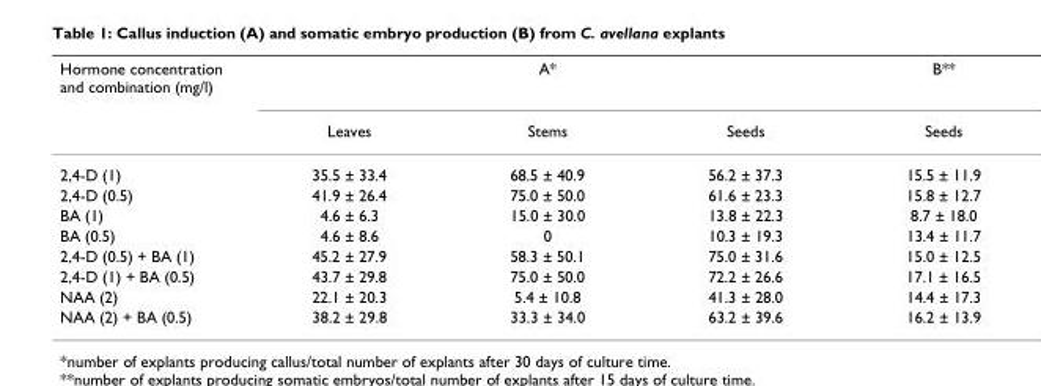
<table><thead><tr><td rowspan="2">Hormone concentration and combination (mg/l)</td><td colspan="3">A*</td><td rowspan="2">B** Seeds</td></tr><tr><td>Leaves</td><td>Stems</td><td>Seeds</td></tr></thead><tbody><tr><td>2,4-D (1)</td><td>35.5 ± 33.4</td><td>68.5 ± 40.9</td><td>56.2 ± 37.3</td><td>15.5 ± 11.9</td></tr><tr><td>2,4-D (0.5)</td><td>41.9 ± 26.4</td><td>75.0 ± 50.0</td><td>61.6 ± 23.3</td><td>15.8 ± 12.7</td></tr><tr><td>BA (1)</td><td>4.6 ± 6.3</td><td>15.0 ± 30.0</td><td>13.8 ± 22.3</td><td>8.7 ± 18.0</td></tr><tr><td>BA (0.5)</td><td>4.6 ± 8.6</td><td>0</td><td>10.3 ± 19.3</td><td>13.4 ± 11.7</td></tr><tr><td>2,4-D (0.5) + BA (1)</td><td>45.2 ± 27.9</td><td>58.3 ± 50.1</td><td>75.0 ± 31.6</td><td>15.0 ± 12.5</td></tr><tr><td>2,4-D (1) + BA (0.5)</td><td>43.7 ± 29.8</td><td>75.0 ± 50.0</td><td>72.2 ± 26.6</td><td>17.1 ± 16.5</td></tr><tr><td>NAA (2)</td><td>22.1 ± 20.3</td><td>5.4 ± 10.8</td><td>41.3 ± 28.0</td><td>14.4 ± 17.3</td></tr><tr><td>NAA (2) + BA (0.5)</td><td>38.2 ± 29.8</td><td>33.3 ± 34.0</td><td>63.2 ± 39.6</td><td>16.2 ± 13.9</td></tr></tbody></table>